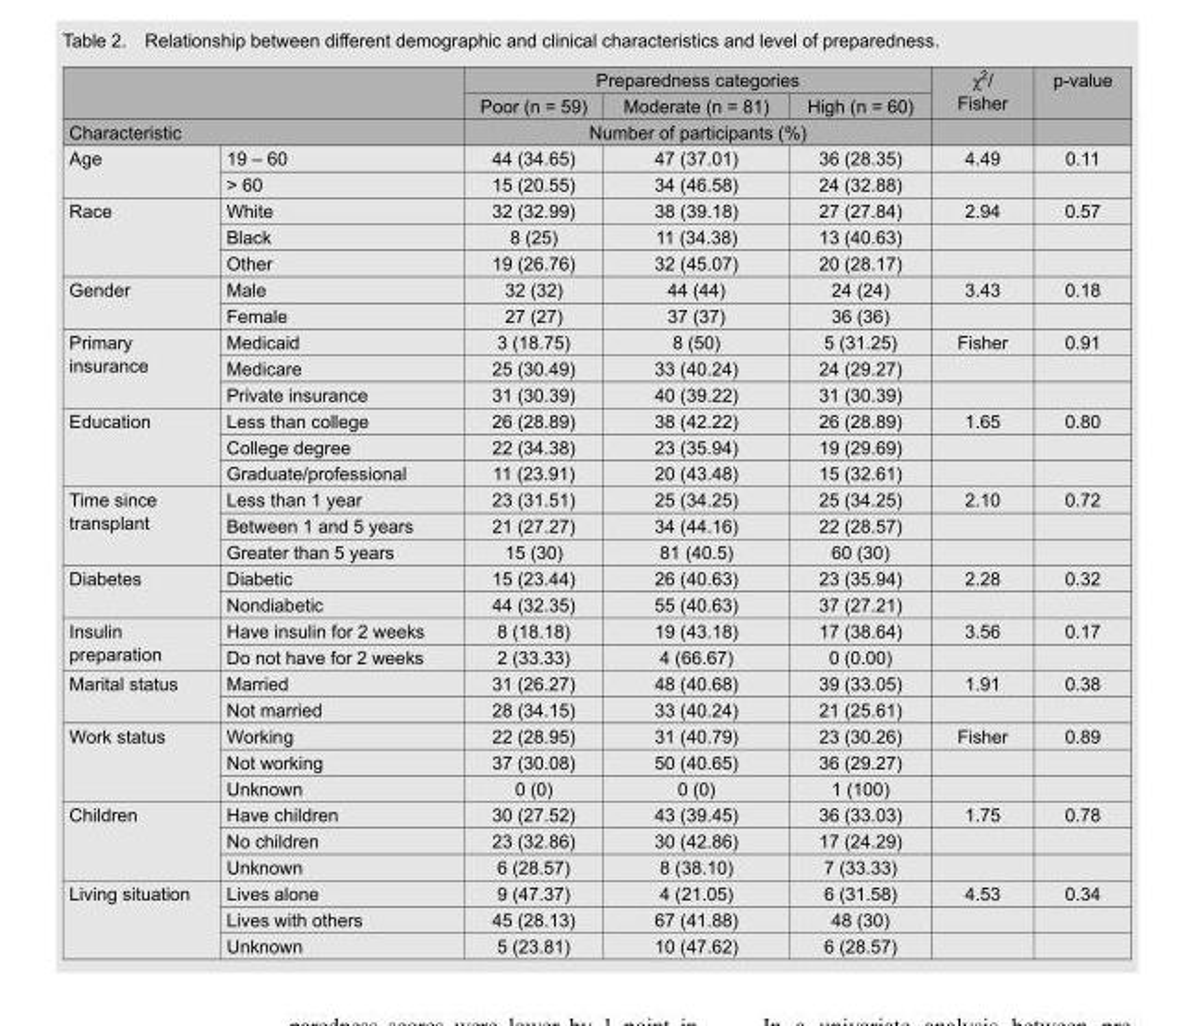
<table><thead><tr><td rowspan="2"></td><td rowspan="2"></td><td colspan="3">Preparedness categories</td><td rowspan="3">χ<sup>2</sup>/ Fisher</td><td rowspan="3">p-value</td></tr><tr><td>Poor (n = 59)</td><td>Moderate (n = 81)</td><td>High (n = 60)</td></tr><tr><td colspan="2">Characteristic</td><td colspan="3">Number of participants (%)</td></tr></thead><tbody><tr><td rowspan="2">Age</td><td>19 – 60</td><td>44 (34.65)</td><td>47 (37.01)</td><td>36 (28.35)</td><td>4.49</td><td>0.11</td></tr><tr><td>&gt; 60</td><td>15 (20.55)</td><td>34 (46.58)</td><td>24 (32.88)</td><td></td><td></td></tr><tr><td rowspan="3">Race</td><td>White</td><td>32 (32.99)</td><td>38 (39.18)</td><td>27 (27.84)</td><td>2.94</td><td>0.57</td></tr><tr><td>Black</td><td>8 (25)</td><td>11 (34.38)</td><td>13 (40.63)</td><td></td><td></td></tr><tr><td>Other</td><td>19 (26.76)</td><td>32 (45.07)</td><td>20 (28.17)</td><td></td><td></td></tr><tr><td rowspan="2">Gender</td><td>Male</td><td>32 (32)</td><td>44 (44)</td><td>24 (24)</td><td>3.43</td><td>0.18</td></tr><tr><td>Female</td><td>27 (27)</td><td>37 (37)</td><td>36 (36)</td><td></td><td></td></tr><tr><td rowspan="3">Primary insurance</td><td>Medicaid</td><td>3 (18.75)</td><td>8 (50)</td><td>5 (31.25)</td><td>Fisher</td><td>0.91</td></tr><tr><td>Medicare</td><td>25 (30.49)</td><td>33 (40.24)</td><td>24 (29.27)</td><td></td><td></td></tr><tr><td>Private insurance</td><td>31 (30.39)</td><td>40 (39.22)</td><td>31 (30.39)</td><td></td><td></td></tr><tr><td rowspan="3">Education</td><td>Less than college</td><td>26 (28.89)</td><td>38 (42.22)</td><td>26 (28.89)</td><td>1.65</td><td>0.80</td></tr><tr><td>College degree</td><td>22 (34.38)</td><td>23 (35.94)</td><td>19 (29.69)</td><td></td><td></td></tr><tr><td>Graduate/professional</td><td>11 (23.91)</td><td>20 (43.48)</td><td>15 (32.61)</td><td></td><td></td></tr><tr><td rowspan="3">Time since transplant</td><td>Less than 1 year</td><td>23 (31.51)</td><td>25 (34.25)</td><td>25 (34.25)</td><td>2.10</td><td>0.72</td></tr><tr><td>Between 1 and 5 years</td><td>21 (27.27)</td><td>34 (44.16)</td><td>22 (28.57)</td><td></td><td></td></tr><tr><td>Greater than 5 years</td><td>15 (30)</td><td>81 (40.5)</td><td>60 (30)</td><td></td><td></td></tr><tr><td rowspan="2">Diabetes</td><td>Diabetic</td><td>15 (23.44)</td><td>26 (40.63)</td><td>23 (35.94)</td><td>2.28</td><td>0.32</td></tr><tr><td>Nondiabetic</td><td>44 (32.35)</td><td>55 (40.63)</td><td>37 (27.21)</td><td></td><td></td></tr><tr><td rowspan="2">Insulin preparation</td><td>Have insulin for 2 weeks</td><td>8 (18.18)</td><td>19 (43.18)</td><td>17 (38.64)</td><td>3.56</td><td>0.17</td></tr><tr><td>Do not have for 2 weeks</td><td>2 (33.33)</td><td>4 (66.67)</td><td>0 (0.00)</td><td></td><td></td></tr><tr><td rowspan="2">Marital status</td><td>Married</td><td>31 (26.27)</td><td>48 (40.68)</td><td>39 (33.05)</td><td>1.91</td><td>0.38</td></tr><tr><td>Not married</td><td>28 (34.15)</td><td>33 (40.24)</td><td>21 (25.61)</td><td></td><td></td></tr><tr><td rowspan="3">Work status</td><td>Working</td><td>22 (28.95)</td><td>31 (40.79)</td><td>23 (30.26)</td><td>Fisher</td><td>0.89</td></tr><tr><td>Not working</td><td>37 (30.08)</td><td>50 (40.65)</td><td>36 (29.27)</td><td></td><td></td></tr><tr><td>Unknown</td><td>0 (0)</td><td>0 (0)</td><td>1 (100)</td><td></td><td></td></tr><tr><td rowspan="3">Children</td><td>Have children</td><td>30 (27.52)</td><td>43 (39.45)</td><td>36 (33.03)</td><td>1.75</td><td>0.78</td></tr><tr><td>No children</td><td>23 (32.86)</td><td>30 (42.86)</td><td>17 (24.29)</td><td></td><td></td></tr><tr><td>Unknown</td><td>6 (28.57)</td><td>8 (38.10)</td><td>7 (33.33)</td><td></td><td></td></tr><tr><td rowspan="3">Living situation</td><td>Lives alone</td><td>9 (47.37)</td><td>4 (21.05)</td><td>6 (31.58)</td><td>4.53</td><td>0.34</td></tr><tr><td>Lives with others</td><td>45 (28.13)</td><td>67 (41.88)</td><td>48 (30)</td><td></td><td></td></tr><tr><td>Unknown</td><td>5 (23.81)</td><td>10 (47.62)</td><td>6 (28.57)</td><td></td><td></td></tr></tbody></table>